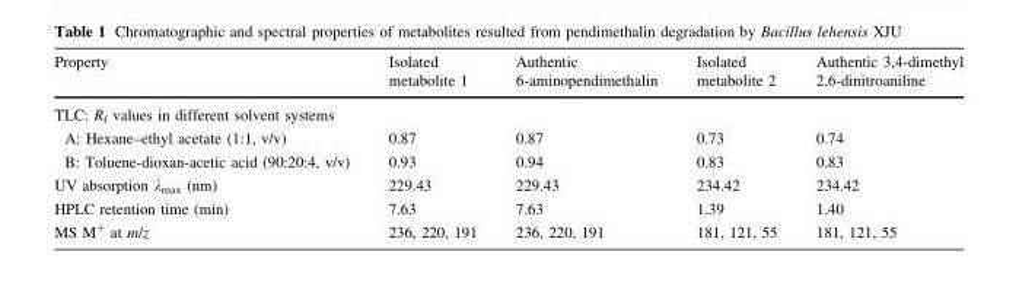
<table><thead><tr><td>Property</td><td>Isolated metabolite 1</td><td>Authentic 6-aminopendimethalin</td><td>Isolated metabolite 2</td><td>Authentic 3,4-dimethyl 2,6-dinitroaniline</td></tr></thead><tbody><tr><td colspan="5">TLC: R<sub>f</sub> values in different solvent systems</td></tr><tr><td>A: Hexane–ethyl acetate (1:1, v/v)</td><td>0.87</td><td>0.87</td><td>0.73</td><td>0.74</td></tr><tr><td>B: Toluene-dioxan-acetic acid (90:20:4, v/v)</td><td>0.93</td><td>0.94</td><td>0.83</td><td>0.83</td></tr><tr><td>UV absorption λ<sub>max</sub> (nm)</td><td>229.43</td><td>229.43</td><td>234.42</td><td>234.42</td></tr><tr><td>HPLC retention time (min)</td><td>7.63</td><td>7.63</td><td>1.39</td><td>1.40</td></tr><tr><td>MS M<sup>+</sup> at m/z</td><td>236, 220, 191</td><td>236, 220, 191</td><td>181, 121, 55</td><td>181, 121, 55</td></tr></tbody></table>